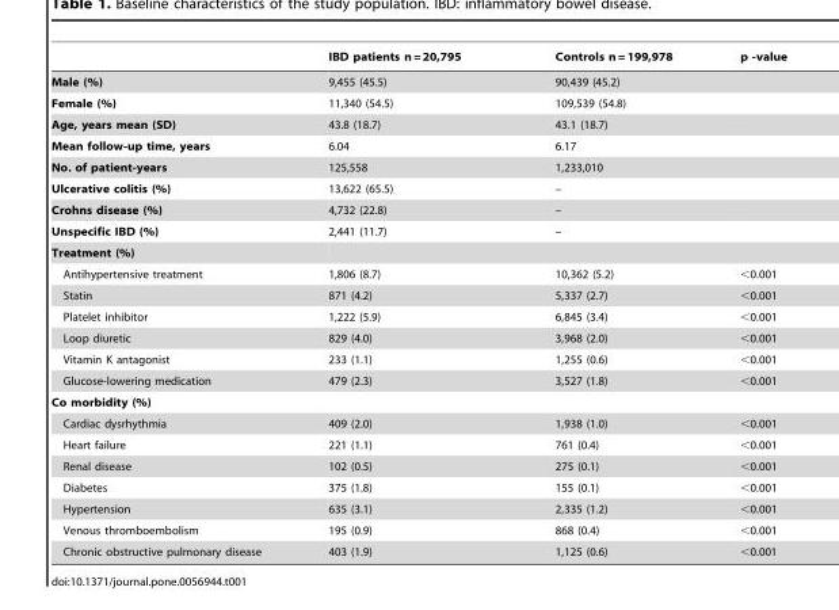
<table><thead><tr><td></td><td>IBD patients n = 20,795</td><td>Controls n = 199,978</td><td>p -value</td></tr></thead><tbody><tr><td>Male (%)</td><td>9,455 (45.5)</td><td>90,439 (45.2)</td><td></td></tr><tr><td>Female (%)</td><td>11,340 (54.5)</td><td>109,539 (54.8)</td><td></td></tr><tr><td>Age, years mean (SD)</td><td>43.8 (18.7)</td><td>43.1 (18.7)</td><td></td></tr><tr><td>Mean follow-up time, years</td><td>6.04</td><td>6.17</td><td></td></tr><tr><td>No. of patient-years</td><td>125,558</td><td>1,233,010</td><td></td></tr><tr><td>Ulcerative colitis (%)</td><td>13,622 (65.5)</td><td>–</td><td></td></tr><tr><td>Crohns disease (%)</td><td>4,732 (22.8)</td><td>–</td><td></td></tr><tr><td>Unspecific IBD (%)</td><td>2,441 (11.7)</td><td>–</td><td></td></tr><tr><td colspan="4">Treatment (%)</td></tr><tr><td>Antihypertensive treatment</td><td>1,806 (8.7)</td><td>10,362 (5.2)</td><td>&lt;0.001</td></tr><tr><td>Statin</td><td>871 (4.2)</td><td>5,337 (2.7)</td><td>&lt;0.001</td></tr><tr><td>Platelet inhibitor</td><td>1,222 (5.9)</td><td>6,845 (3.4)</td><td>&lt;0.001</td></tr><tr><td>Loop diuretic</td><td>829 (4.0)</td><td>3,968 (2.0)</td><td>&lt;0.001</td></tr><tr><td>Vitamin K antagonist</td><td>233 (1.1)</td><td>1,255 (0.6)</td><td>&lt;0.001</td></tr><tr><td>Glucose-lowering medication</td><td>479 (2.3)</td><td>3,527 (1.8)</td><td>&lt;0.001</td></tr><tr><td colspan="4">Co morbidity (%)</td></tr><tr><td>Cardiac dysrhythmia</td><td>409 (2.0)</td><td>1,938 (1.0)</td><td>&lt;0.001</td></tr><tr><td>Heart failure</td><td>221 (1.1)</td><td>761 (0.4)</td><td>&lt;0.001</td></tr><tr><td>Renal disease</td><td>102 (0.5)</td><td>275 (0.1)</td><td>&lt;0.001</td></tr><tr><td>Diabetes</td><td>375 (1.8)</td><td>155 (0.1)</td><td>&lt;0.001</td></tr><tr><td>Hypertension</td><td>635 (3.1)</td><td>2,335 (1.2)</td><td>&lt;0.001</td></tr><tr><td>Venous thromboembolism</td><td>195 (0.9)</td><td>868 (0.4)</td><td>&lt;0.001</td></tr><tr><td>Chronic obstructive pulmonary disease</td><td>403 (1.9)</td><td>1,125 (0.6)</td><td>&lt;0.001</td></tr></tbody></table>